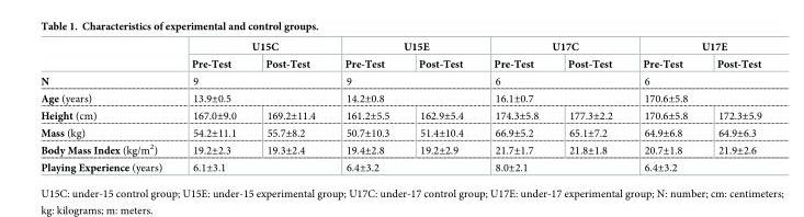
<table><thead><tr><td rowspan="2"></td><td colspan="2">U15C</td><td colspan="2">U15E</td><td colspan="2">U17C</td><td colspan="2">U17E</td></tr><tr><td>Pre-Test</td><td>Post-Test</td><td>Pre-Test</td><td>Post-Test</td><td>Pre-Test</td><td>Post-Test</td><td>Pre-Test</td><td>Post-Test</td></tr></thead><tbody><tr><td>N</td><td colspan="2">9</td><td colspan="2">9</td><td colspan="2">6</td><td colspan="2">6</td></tr><tr><td>Age (years)</td><td colspan="2">13.9±0.5</td><td colspan="2">14.2±0.8</td><td colspan="2">16.1±0.7</td><td colspan="2">170.6±5.8</td></tr><tr><td>Height (cm)</td><td>167.0±9.0</td><td>169.2±11.4</td><td>161.2±5.5</td><td>162.9±5.4</td><td>174.3±5.8</td><td>177.3±2.2</td><td>170.6±5.8</td><td>172.3±5.9</td></tr><tr><td>Mass (kg)</td><td>54.2±11.1</td><td>55.7±8.2</td><td>50.7±10.3</td><td>51.4±10.4</td><td>66.9±5.2</td><td>65.1±7.2</td><td>64.9±6.8</td><td>64.9±6.3</td></tr><tr><td>Body Mass Index (kg/m<sup>2</sup>)</td><td>19.2±2.3</td><td>19.3±2.4</td><td>19.4±2.8</td><td>19.2±2.9</td><td>21.7±1.7</td><td>21.8±1.8</td><td>20.7±1.8</td><td>21.9±2.6</td></tr><tr><td>Playing Experience (years)</td><td colspan="2">6.1±3.1</td><td colspan="2">6.4±3.2</td><td colspan="2">8.0±2.1</td><td colspan="2">6.4±3.2</td></tr></tbody></table>